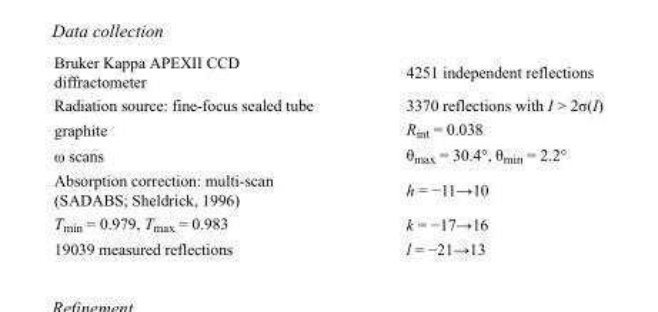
<table><tbody><tr><td>Bruker Kappa APEXII CCD diffractometer</td><td>4251 independent reflections</td></tr><tr><td>Radiation source: fine-focus sealed tube</td><td>3370 reflections with I &gt; 2σ(I)</td></tr><tr><td>graphite</td><td>R<sub>int</sub> = 0.038</td></tr><tr><td>ω scans</td><td>θ<sub>max</sub> = 30.4°, θ<sub>min</sub> = 2.2°</td></tr><tr><td>Absorption correction: multi-scan (SADABS; Sheldrick, 1996)</td><td>h = −11→10</td></tr><tr><td>T<sub>min</sub> = 0.979, T<sub>max</sub> = 0.983</td><td>k = −17→16</td></tr><tr><td>19039 measured reflections</td><td>l = −21→13</td></tr></tbody></table>